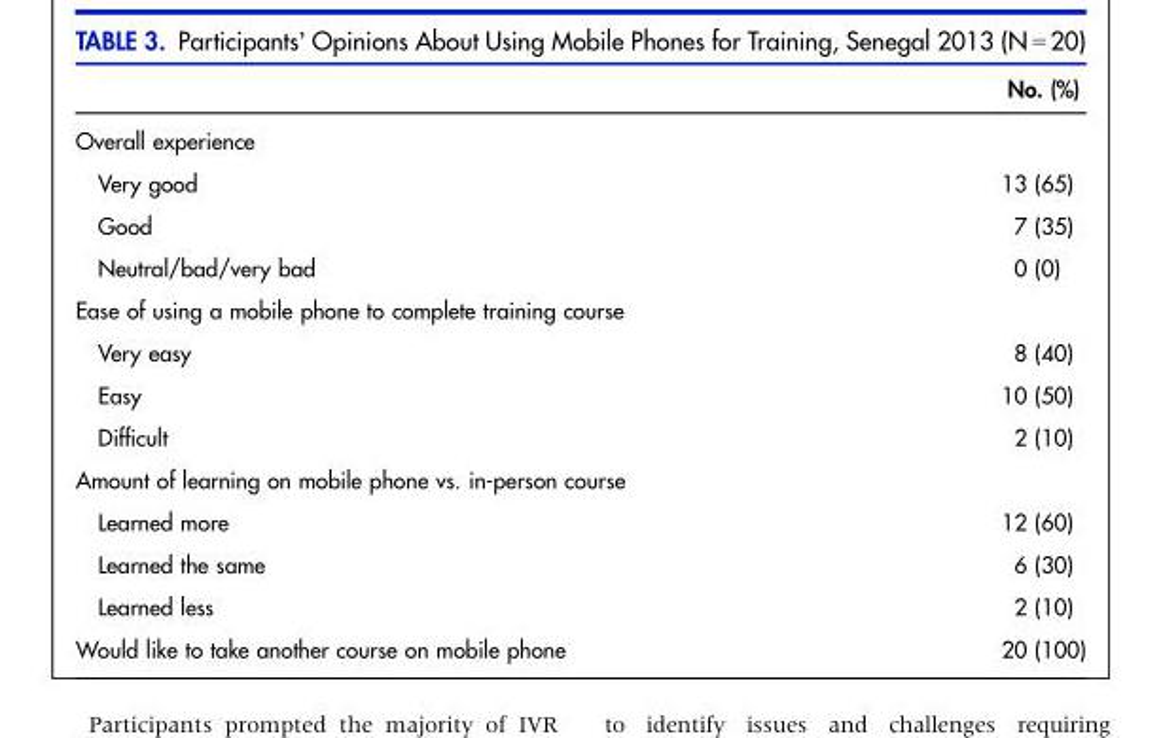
<table><thead><tr><td></td><td>No. (%)</td></tr></thead><tbody><tr><td colspan="2">Overall experience</td></tr><tr><td>Very good</td><td>13 (65)</td></tr><tr><td>Good</td><td>7 (35)</td></tr><tr><td>Neutral/bad/very bad</td><td>0 (0)</td></tr><tr><td colspan="2">Ease of using a mobile phone to complete training course</td></tr><tr><td>Very easy</td><td>8 (40)</td></tr><tr><td>Easy</td><td>10 (50)</td></tr><tr><td>Difficult</td><td>2 (10)</td></tr><tr><td colspan="2">Amount of learning on mobile phone vs. in-person course</td></tr><tr><td>Learned more</td><td>12 (60)</td></tr><tr><td>Learned the same</td><td>6 (30)</td></tr><tr><td>Learned less</td><td>2 (10)</td></tr><tr><td>Would like to take another course on mobile phone</td><td>20 (100)</td></tr></tbody></table>